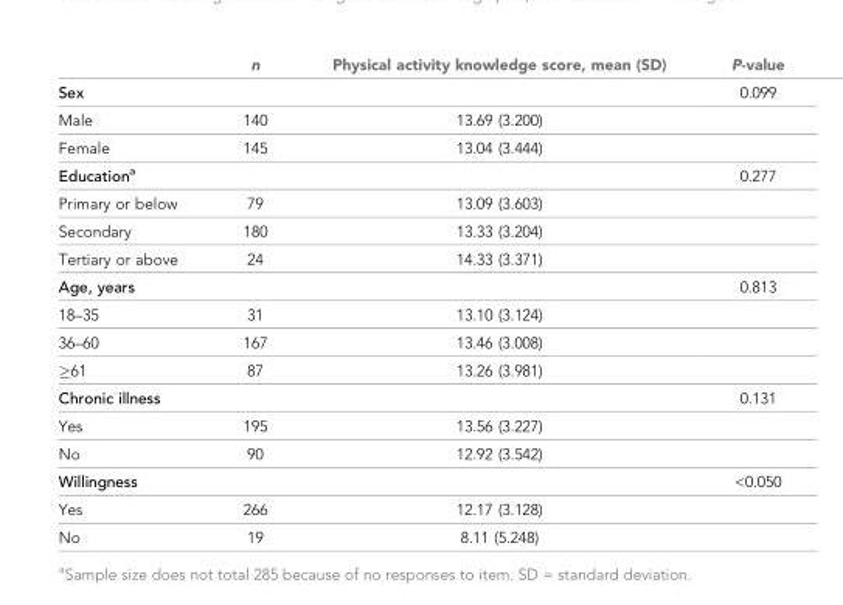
<table><thead><tr><td></td><td>n</td><td>Physical activity knowledge score, mean (SD)</td><td>P-value</td></tr></thead><tbody><tr><td>Sex</td><td></td><td></td><td>0.099</td></tr><tr><td>Male</td><td>140</td><td>13.69 (3.200)</td><td></td></tr><tr><td>Female</td><td>145</td><td>13.04 (3.444)</td><td></td></tr><tr><td>Education<sup>a</sup></td><td></td><td></td><td>0.277</td></tr><tr><td>Primary or below</td><td>79</td><td>13.09 (3.603)</td><td></td></tr><tr><td>Secondary</td><td>180</td><td>13.33 (3.204)</td><td></td></tr><tr><td>Tertiary or above</td><td>24</td><td>14.33 (3.371)</td><td></td></tr><tr><td>Age, years</td><td></td><td></td><td>0.813</td></tr><tr><td>18–35</td><td>31</td><td>13.10 (3.124)</td><td></td></tr><tr><td>36–60</td><td>167</td><td>13.46 (3.008)</td><td></td></tr><tr><td>≥61</td><td>87</td><td>13.26 (3.981)</td><td></td></tr><tr><td>Chronic illness</td><td></td><td></td><td>0.131</td></tr><tr><td>Yes</td><td>195</td><td>13.56 (3.227)</td><td></td></tr><tr><td>No</td><td>90</td><td>12.92 (3.542)</td><td></td></tr><tr><td>Willingness</td><td></td><td></td><td>&lt;0.050</td></tr><tr><td>Yes</td><td>266</td><td>12.17 (3.128)</td><td></td></tr><tr><td>No</td><td>19</td><td>8.11 (5.248)</td><td></td></tr></tbody></table>